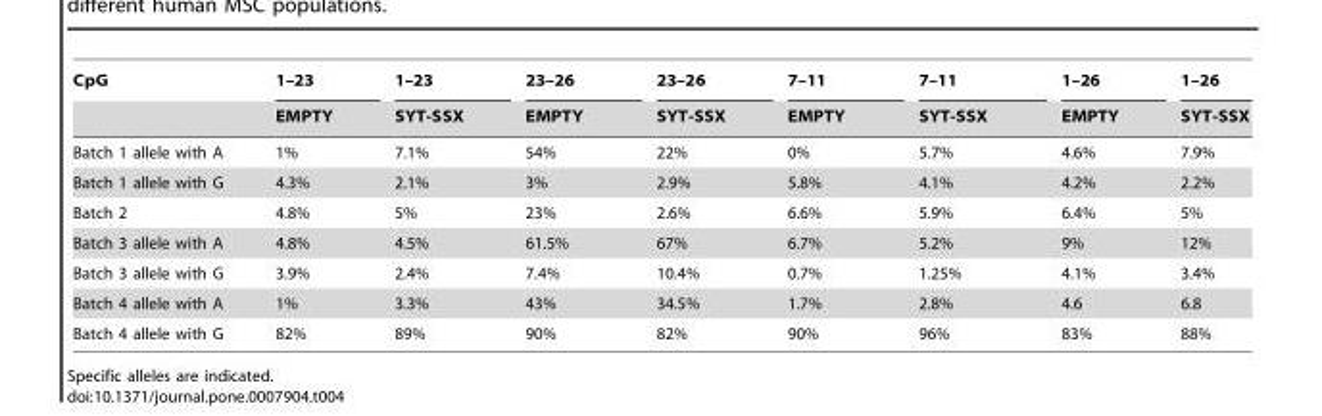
<table><thead><tr><td rowspan="2">CpG</td><td rowspan="2">1–23 EMPTY</td><td rowspan="2">1–23 SYT-SSX</td><td rowspan="2">23–26 EMPTY</td><td rowspan="2">23–26 SYT-SSX</td><td rowspan="2">7–11 EMPTY</td><td rowspan="2">7–11 SYT-SSX</td><td rowspan="2">1–26 EMPTY</td><td rowspan="2">1–26 SYT-SSX</td></tr><tr></tr></thead><tbody><tr><td>Batch 1 allele with A</td><td>1%</td><td>7.1%</td><td>54%</td><td>22%</td><td>0%</td><td>5.7%</td><td>4.6%</td><td>7.9%</td></tr><tr><td>Batch 1 allele with G</td><td>4.3%</td><td>2.1%</td><td>3%</td><td>2.9%</td><td>5.8%</td><td>4.1%</td><td>4.2%</td><td>2.2%</td></tr><tr><td>Batch 2</td><td>4.8%</td><td>5%</td><td>23%</td><td>2.6%</td><td>6.6%</td><td>5.9%</td><td>6.4%</td><td>5%</td></tr><tr><td>Batch 3 allele with A</td><td>4.8%</td><td>4.5%</td><td>61.5%</td><td>67%</td><td>6.7%</td><td>5.2%</td><td>9%</td><td>12%</td></tr><tr><td>Batch 3 allele with G</td><td>3.9%</td><td>2.4%</td><td>7.4%</td><td>10.4%</td><td>0.7%</td><td>1.25%</td><td>4.1%</td><td>3.4%</td></tr><tr><td>Batch 4 allele with A</td><td>1%</td><td>3.3%</td><td>43%</td><td>34.5%</td><td>1.7%</td><td>2.8%</td><td>4.6</td><td>6.8</td></tr><tr><td>Batch 4 allele with G</td><td>82%</td><td>89%</td><td>90%</td><td>82%</td><td>90%</td><td>96%</td><td>83%</td><td>88%</td></tr></tbody></table>